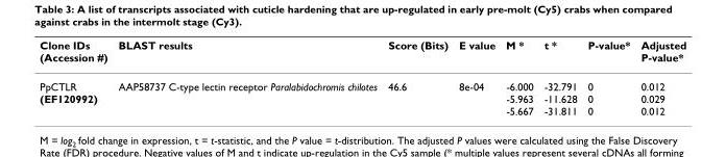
<table><thead><tr><td>Clone IDs (Accession #)</td><td>BLAST results</td><td>Score (Bits)</td><td>E value</td><td>M *</td><td>t *</td><td>P-value*</td><td>Adjusted P-value*</td></tr></thead><tbody><tr><td>PpCTLR (EF120992)</td><td>AAP58737 C-type lectin receptor Paralabidochromis chilotes</td><td>46.6</td><td>8e-04</td><td>-6.000 -5.963 -5.667</td><td>-32.791 -11.628 -31.811</td><td>0 0 0</td><td>0.012 0.029 0.012</td></tr></tbody></table>